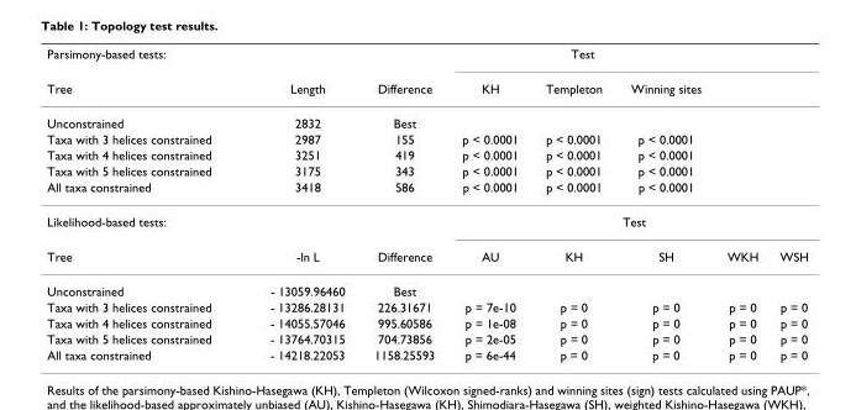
<table><thead><tr><td rowspan="2">Parsimony-based tests: Tree</td><td rowspan="2">Length</td><td rowspan="2">Difference</td><td colspan="3">Test</td><td rowspan="2"></td><td rowspan="2"></td></tr><tr><td>KH</td><td>Templeton</td><td>Winning sites</td></tr></thead><tbody><tr><td>Unconstrained</td><td>2832</td><td>Best</td><td></td><td></td><td></td><td></td><td></td></tr><tr><td>Taxa with 3 helices constrained</td><td>2987</td><td>155</td><td>p &lt; 0.0001</td><td>p &lt; 0.0001</td><td>p &lt; 0.0001</td><td></td><td></td></tr><tr><td>Taxa with 4 helices constrained</td><td>3251</td><td>419</td><td>p &lt; 0.0001</td><td>p &lt; 0.0001</td><td>p &lt; 0.0001</td><td></td><td></td></tr><tr><td>Taxa with 5 helices constrained</td><td>3175</td><td>343</td><td>p &lt; 0.0001</td><td>p &lt; 0.0001</td><td>p &lt; 0.0001</td><td></td><td></td></tr><tr><td>All taxa constrained</td><td>3418</td><td>586</td><td>p &lt; 0.0001</td><td>p &lt; 0.0001</td><td>p &lt; 0.0001</td><td></td><td></td></tr><tr><td>Likelihood-based tests:</td><td></td><td></td><td colspan="5">Test</td></tr><tr><td>Tree</td><td>-ln L</td><td>Difference</td><td>AU</td><td>KH</td><td>SH</td><td>WKH</td><td>WSH</td></tr><tr><td>Unconstrained</td><td>- 13059.96460</td><td>Best</td><td></td><td></td><td></td><td></td><td></td></tr><tr><td>Taxa with 3 helices constrained</td><td>- 13286.28131</td><td>226.31671</td><td>p = 7e-10</td><td>p = 0</td><td>p = 0</td><td>p = 0</td><td>p = 0</td></tr><tr><td>Taxa with 4 helices constrained</td><td>- 14055.57046</td><td>995.60586</td><td>p = 1e-08</td><td>p = 0</td><td>p = 0</td><td>p = 0</td><td>p = 0</td></tr><tr><td>Taxa with 5 helices constrained</td><td>- 13764.70315</td><td>704.73856</td><td>p = 2e-05</td><td>p = 0</td><td>p = 0</td><td>p = 0</td><td>p = 0</td></tr><tr><td>All taxa constrained</td><td>- 14218.22053</td><td>1158.25593</td><td>p = 6e-44</td><td>p = 0</td><td>p = 0</td><td>p = 0</td><td>p = 0</td></tr></tbody></table>